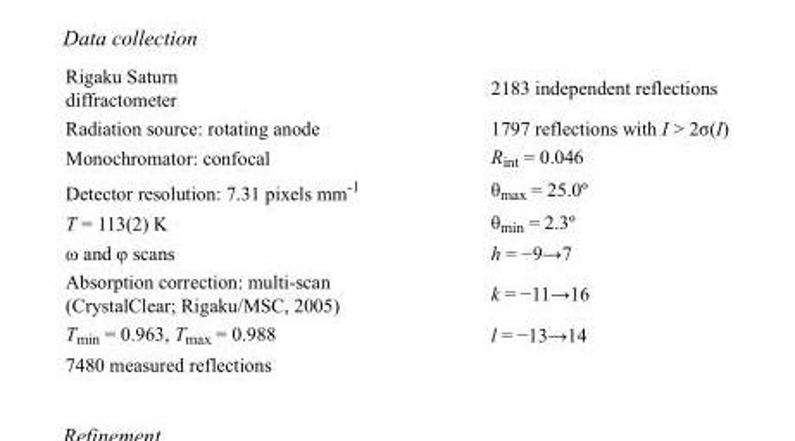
<table><tbody><tr><td>Rigaku Saturn diffractometer</td><td>2183 independent reflections</td></tr><tr><td>Radiation source: rotating anode</td><td>1797 reflections with I &gt; 2σ(I)</td></tr><tr><td>Monochromator: confocal</td><td>R<sub>int</sub> = 0.046</td></tr><tr><td>Detector resolution: 7.31 pixels mm<sup>-1</sup></td><td>θ<sub>max</sub> = 25.0º</td></tr><tr><td>T = 113(2) K</td><td>θ<sub>min</sub> = 2.3º</td></tr><tr><td>ω and φ scans</td><td>h = −9→7</td></tr><tr><td>Absorption correction: multi-scan (CrystalClear; Rigaku/MSC, 2005)</td><td>k = −11→16</td></tr><tr><td>T<sub>min</sub> = 0.963, T<sub>max</sub> = 0.988</td><td>l = −13→14</td></tr><tr><td>7480 measured reflections</td><td></td></tr></tbody></table>